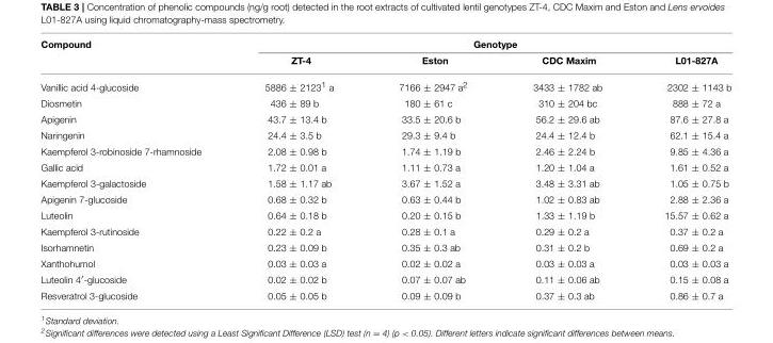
<table><thead><tr><td rowspan="2">Compound</td><td colspan="4">Genotype</td></tr><tr><td>ZT-4</td><td>Eston</td><td>CDC Maxim</td><td>L01-827A</td></tr></thead><tbody><tr><td>Vanillic acid 4-glucoside</td><td>5886 ± 2123<sup>1</sup> a</td><td>7166 ± 2947 a<sup>2</sup></td><td>3433 ± 1782 ab</td><td>2302 ± 1143 b</td></tr><tr><td>Diosmetin</td><td>436 ± 89 b</td><td>180 ± 61 c</td><td>310 ± 204 bc</td><td>888 ± 72 a</td></tr><tr><td>Apigenin</td><td>43.7 ± 13.4 b</td><td>33.5 ± 20.6 b</td><td>56.2 ± 29.6 ab</td><td>87.6 ± 27.8 a</td></tr><tr><td>Naringenin</td><td>24.4 ± 3.5 b</td><td>29.3 ± 9.4 b</td><td>24.4 ± 12.4 b</td><td>62.1 ± 15.4 a</td></tr><tr><td>Kaempferol 3-robinoside 7-rhamnoside</td><td>2.08 ± 0.98 b</td><td>1.74 ± 1.19 b</td><td>2.46 ± 2.24 b</td><td>9.85 ± 4.36 a</td></tr><tr><td>Gallic acid</td><td>1.72 ± 0.01 a</td><td>1.11 ± 0.73 a</td><td>1.20 ± 1.04 a</td><td>1.61 ± 0.52 a</td></tr><tr><td>Kaempferol 3-galactoside</td><td>1.58 ± 1.17 ab</td><td>3.67 ± 1.52 a</td><td>3.48 ± 3.31 ab</td><td>1.05 ± 0.75 b</td></tr><tr><td>Apigenin 7-glucoside</td><td>0.68 ± 0.32 b</td><td>0.63 ± 0.44 b</td><td>1.02 ± 0.83 ab</td><td>2.88 ± 2.36 a</td></tr><tr><td>Luteolin</td><td>0.64 ± 0.18 b</td><td>0.20 ± 0.15 b</td><td>1.33 ± 1.19 b</td><td>15.57 ± 0.62 a</td></tr><tr><td>Kaempferol 3-rutinoside</td><td>0.22 ± 0.2 a</td><td>0.28 ± 0.1 a</td><td>0.29 ± 0.2 a</td><td>0.37 ± 0.2 a</td></tr><tr><td>Isorhamnetin</td><td>0.23 ± 0.09 b</td><td>0.35 ± 0.3 ab</td><td>0.31 ± 0.2 b</td><td>0.69 ± 0.2 a</td></tr><tr><td>Xanthohumol</td><td>0.03 ± 0.03 a</td><td>0.02 ± 0.02 a</td><td>0.03 ± 0.03 a</td><td>0.03 ± 0.03 a</td></tr><tr><td>Luteolin 4′-glucoside</td><td>0.02 ± 0.02 b</td><td>0.07 ± 0.07 ab</td><td>0.11 ± 0.06 ab</td><td>0.15 ± 0.08 a</td></tr><tr><td>Resveratrol 3-glucoside</td><td>0.05 ± 0.05 b</td><td>0.09 ± 0.09 b</td><td>0.37 ± 0.3 ab</td><td>0.86 ± 0.7 a</td></tr></tbody></table>